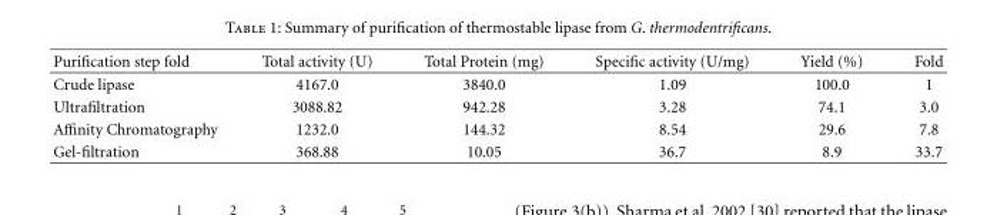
<table><thead><tr><td>Purification step fold</td><td>Total activity (U)</td><td>Total Protein (mg)</td><td>Specific activity (U/mg)</td><td>Yield (%)</td><td>Fold</td></tr></thead><tbody><tr><td>Crude lipase</td><td>4167.0</td><td>3840.0</td><td>1.09</td><td>100.0</td><td>1</td></tr><tr><td>Ultrafiltration</td><td>3088.82</td><td>942.28</td><td>3.28</td><td>74.1</td><td>3.0</td></tr><tr><td>Affinity Chromatography</td><td>1232.0</td><td>144.32</td><td>8.54</td><td>29.6</td><td>7.8</td></tr><tr><td>Gel-filtration</td><td>368.88</td><td>10.05</td><td>36.7</td><td>8.9</td><td>33.7</td></tr></tbody></table>